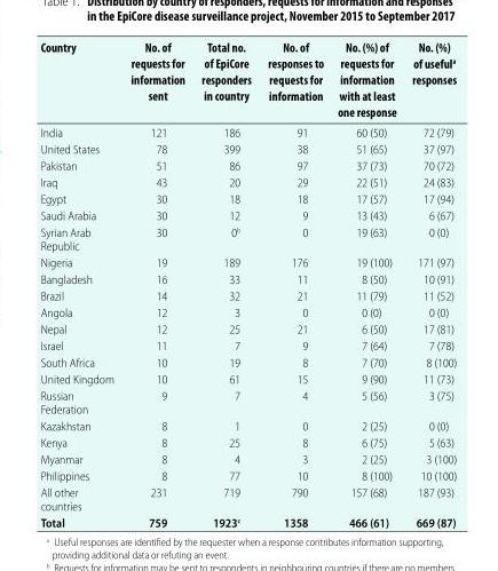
<table><thead><tr><td>Country</td><td>No. of requests for information sent</td><td>Total no. of EpiCore responders in country</td><td>No. of responses to requests for information</td><td>No. (%) of requests for information with at least one response</td><td>No. (%) of useful<sup>a</sup> responses</td></tr></thead><tbody><tr><td>India</td><td>121</td><td>186</td><td>91</td><td>60 (50)</td><td>72 (79)</td></tr><tr><td>United States</td><td>78</td><td>399</td><td>38</td><td>51 (65)</td><td>37 (97)</td></tr><tr><td>Pakistan</td><td>51</td><td>86</td><td>97</td><td>37 (73)</td><td>70 (72)</td></tr><tr><td>Iraq</td><td>43</td><td>20</td><td>29</td><td>22 (51)</td><td>24 (83)</td></tr><tr><td>Egypt</td><td>30</td><td>18</td><td>18</td><td>17 (57)</td><td>17 (94)</td></tr><tr><td>Saudi Arabia</td><td>30</td><td>12</td><td>9</td><td>13 (43)</td><td>6 (67)</td></tr><tr><td>Syrian Arab Republic</td><td>30</td><td>0<sup>b</sup></td><td>0</td><td>19 (63)</td><td>0 (0)</td></tr><tr><td>Nigeria</td><td>19</td><td>189</td><td>176</td><td>19 (100)</td><td>171 (97)</td></tr><tr><td>Bangladesh</td><td>16</td><td>33</td><td>11</td><td>8 (50)</td><td>10 (91)</td></tr><tr><td>Brazil</td><td>14</td><td>32</td><td>21</td><td>11 (79)</td><td>11 (52)</td></tr><tr><td>Angola</td><td>12</td><td>3</td><td>0</td><td>0 (0)</td><td>0 (0)</td></tr><tr><td>Nepal</td><td>12</td><td>25</td><td>21</td><td>6 (50)</td><td>17 (81)</td></tr><tr><td>Israel</td><td>11</td><td>7</td><td>9</td><td>7 (64)</td><td>7 (78)</td></tr><tr><td>South Africa</td><td>10</td><td>19</td><td>8</td><td>7 (70)</td><td>8 (100)</td></tr><tr><td>United Kingdom</td><td>10</td><td>61</td><td>15</td><td>9 (90)</td><td>11 (73)</td></tr><tr><td>Russian Federation</td><td>9</td><td>7</td><td>4</td><td>5 (56)</td><td>3 (75)</td></tr><tr><td>Kazakhstan</td><td>8</td><td>1</td><td>0</td><td>2 (25)</td><td>0 (0)</td></tr><tr><td>Kenya</td><td>8</td><td>25</td><td>8</td><td>6 (75)</td><td>5 (63)</td></tr><tr><td>Myanmar</td><td>8</td><td>4</td><td>3</td><td>2 (25)</td><td>3 (100)</td></tr><tr><td>Philippines</td><td>8</td><td>77</td><td>10</td><td>8 (100)</td><td>10 (100)</td></tr><tr><td>All other countries</td><td>231</td><td>719</td><td>790</td><td>157 (68)</td><td>187 (93)</td></tr><tr><td>Total</td><td>759</td><td>1923<sup>c</sup></td><td>1358</td><td>466 (61)</td><td>669 (87)</td></tr></tbody></table>